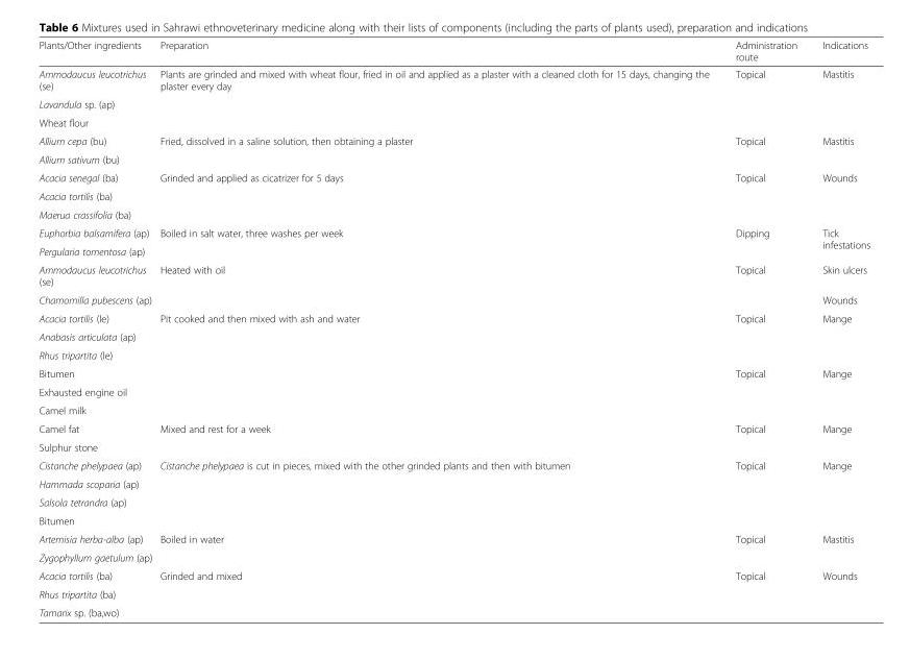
<table><thead><tr><td>Plants/Other ingredients</td><td>Preparation</td><td>Administration route</td><td>Indications</td></tr></thead><tbody><tr><td>Ammodaucus leucotrichus (se)</td><td rowspan="3">Plants are grinded and mixed with wheat flour, fried in oil and applied as a plaster with a cleaned cloth for 15 days, changing the plaster every day</td><td rowspan="3">Topical</td><td rowspan="3">Mastitis</td></tr><tr><td>Lavandula sp. (ap)</td></tr><tr><td>Wheat flour</td></tr><tr><td>Allium cepa (bu)</td><td rowspan="2">Fried, dissolved in a saline solution, then obtaining a plaster</td><td rowspan="2">Topical</td><td rowspan="2">Mastitis</td></tr><tr><td>Allium sativum (bu)</td></tr><tr><td>Acacia senegal (ba)</td><td rowspan="3">Grinded and applied as cicatrizer for 5 days</td><td rowspan="3">Topical</td><td rowspan="3">Wounds</td></tr><tr><td>Acacia tortilis (ba)</td></tr><tr><td>Maerua crassifolia (ba)</td></tr><tr><td>Euphorbia balsamifera (ap)</td><td rowspan="2">Boiled in salt water, three washes per week</td><td rowspan="2">Dipping</td><td rowspan="2">Tick infestations</td></tr><tr><td>Pergularia tomentosa (ap)</td></tr><tr><td>Ammodaucus leucotrichus (se)</td><td rowspan="2">Heated with oil</td><td rowspan="2">Topical</td><td>Skin ulcers</td></tr><tr><td>Chamomilla pubescens (ap)</td><td>Wounds</td></tr><tr><td>Acacia tortilis (le)</td><td rowspan="3">Pit cooked and then mixed with ash and water</td><td rowspan="3">Topical</td><td rowspan="3">Mange</td></tr><tr><td>Anabasis articulata (ap)</td></tr><tr><td>Rhus tripartita (le)</td></tr><tr><td>Bitumen</td><td rowspan="3"></td><td rowspan="3">Topical</td><td rowspan="3">Mange</td></tr><tr><td>Exhausted engine oil</td></tr><tr><td>Camel milk</td></tr><tr><td>Camel fat</td><td rowspan="2">Mixed and rest for a week</td><td rowspan="2">Topical</td><td rowspan="2">Mange</td></tr><tr><td>Sulphur stone</td></tr><tr><td>Cistanche phelypaea (ap)</td><td rowspan="4">Cistanche phelypaea is cut in pieces, mixed with the other grinded plants and then with bitumen</td><td rowspan="4">Topical</td><td rowspan="4">Mange</td></tr><tr><td>Hammada scoparia (ap)</td></tr><tr><td>Salsola tetrandra (ap)</td></tr><tr><td>Bitumen</td></tr><tr><td>Artemisia herba-alba (ap)</td><td rowspan="2">Boiled in water</td><td rowspan="2">Topical</td><td rowspan="2">Mastitis</td></tr><tr><td>Zygophyllum gaetulum (ap)</td></tr><tr><td>Acacia tortilis (ba)</td><td rowspan="3">Grinded and mixed</td><td rowspan="3">Topical</td><td rowspan="3">Wounds</td></tr><tr><td>Rhus tripartita (ba)</td></tr><tr><td>Tamarix sp. (ba,wo)</td></tr></tbody></table>